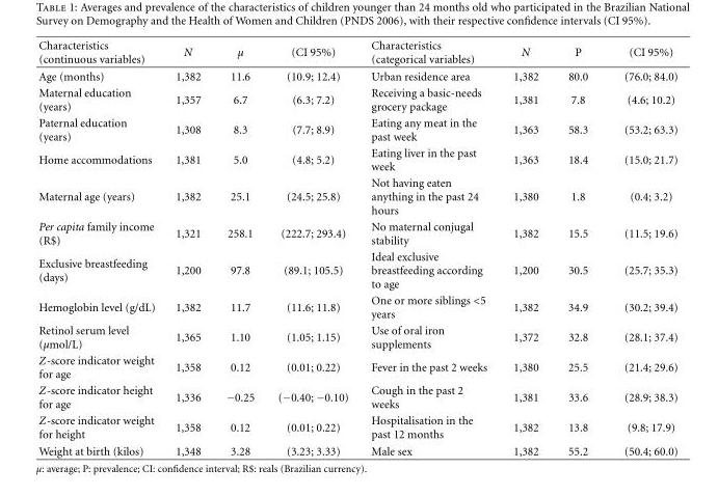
<table><thead><tr><td>Characteristics (continuous variables)</td><td>N</td><td>μ</td><td>(CI 95%)</td><td>Characteristics (categorical variables)</td><td>N</td><td>P</td><td>(CI 95%)</td></tr></thead><tbody><tr><td>Age (months)</td><td>1,382</td><td>11.6</td><td>(10.9; 12.4)</td><td>Urban residence area</td><td>1,382</td><td>80.0</td><td>(76.0; 84.0)</td></tr><tr><td>Maternal education (years)</td><td>1,357</td><td>6.7</td><td>(6.3; 7.2)</td><td>Receiving a basic-needs grocery package</td><td>1,381</td><td>7.8</td><td>(4.6; 10.2)</td></tr><tr><td>Paternal education (years)</td><td>1,308</td><td>8.3</td><td>(7.7; 8.9)</td><td>Eating any meat in the past week</td><td>1,363</td><td>58.3</td><td>(53.2; 63.3)</td></tr><tr><td>Home accommodations</td><td>1,381</td><td>5.0</td><td>(4.8; 5.2)</td><td>Eating liver in the past week</td><td>1,363</td><td>18.4</td><td>(15.0; 21.7)</td></tr><tr><td>Maternal age (years)</td><td>1,382</td><td>25.1</td><td>(24.5; 25.8)</td><td>Not having eaten anything in the past 24 hours</td><td>1,380</td><td>1.8</td><td>(0.4; 3.2)</td></tr><tr><td>Per capita family income (R$)</td><td>1,321</td><td>258.1</td><td>(222.7; 293.4)</td><td>No maternal conjugal stability</td><td>1,382</td><td>15.5</td><td>(11.5; 19.6)</td></tr><tr><td>Exclusive breastfeeding (days)</td><td>1,200</td><td>97.8</td><td>(89.1; 105.5)</td><td>Ideal exclusive breastfeeding according to age</td><td>1,200</td><td>30.5</td><td>(25.7; 35.3)</td></tr><tr><td>Hemoglobin level (g/dL)</td><td>1,382</td><td>11.7</td><td>(11.6; 11.8)</td><td>One or more siblings &lt;5 years</td><td>1,382</td><td>34.9</td><td>(30.2; 39.4)</td></tr><tr><td>Retinol serum level (μmol/L)</td><td>1,365</td><td>1.10</td><td>(1.05; 1.15)</td><td>Use of oral iron supplements</td><td>1,372</td><td>32.8</td><td>(28.1; 37.4)</td></tr><tr><td>Z-score indicator weight for age</td><td>1,358</td><td>0.12</td><td>(0.01; 0.22)</td><td>Fever in the past 2 weeks</td><td>1,380</td><td>25.5</td><td>(21.4; 29.6)</td></tr><tr><td>Z-score indicator height for age</td><td>1,336</td><td>−0.25</td><td>(−0.40; −0.10)</td><td>Cough in the past 2 weeks</td><td>1,381</td><td>33.6</td><td>(28.9; 38.3)</td></tr><tr><td>Z-score indicator weight for height</td><td>1,358</td><td>0.12</td><td>(0.01; 0.22)</td><td>Hospitalisation in the past 12 months</td><td>1,382</td><td>13.8</td><td>(9.8; 17.9)</td></tr><tr><td>Weight at birth (kilos)</td><td>1,348</td><td>3.28</td><td>(3.23; 3.33)</td><td>Male sex</td><td>1,382</td><td>55.2</td><td>(50.4; 60.0)</td></tr></tbody></table>